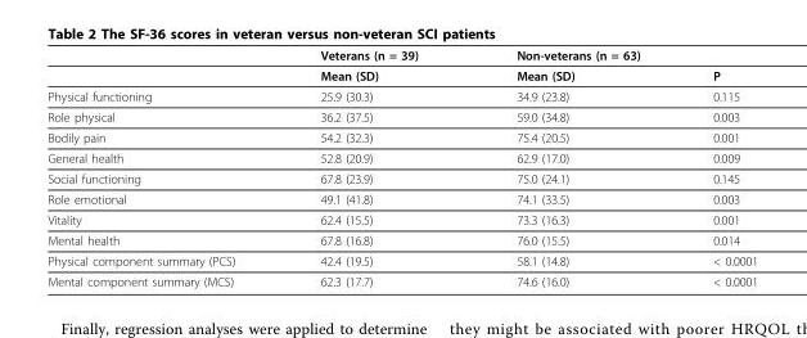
<table><thead><tr><td></td><td>Veterans (n = 39)</td><td>Non-veterans (n = 63)</td><td></td></tr></thead><tbody><tr><td></td><td>Mean (SD)</td><td>Mean (SD)</td><td>P</td></tr><tr><td>Physical functioning</td><td>25.9 (30.3)</td><td>34.9 (23.8)</td><td>0.115</td></tr><tr><td>Role physical</td><td>36.2 (37.5)</td><td>59.0 (34.8)</td><td>0.003</td></tr><tr><td>Bodily pain</td><td>54.2 (32.3)</td><td>75.4 (20.5)</td><td>0.001</td></tr><tr><td>General health</td><td>52.8 (20.9)</td><td>62.9 (17.0)</td><td>0.009</td></tr><tr><td>Social functioning</td><td>67.8 (23.9)</td><td>75.0 (24.1)</td><td>0.145</td></tr><tr><td>Role emotional</td><td>49.1 (41.8)</td><td>74.1 (33.5)</td><td>0.003</td></tr><tr><td>Vitality</td><td>62.4 (15.5)</td><td>73.3 (16.3)</td><td>0.001</td></tr><tr><td>Mental health</td><td>67.8 (16.8)</td><td>76.0 (15.5)</td><td>0.014</td></tr><tr><td>Physical component summary (PCS)</td><td>42.4 (19.5)</td><td>58.1 (14.8)</td><td>&lt; 0.0001</td></tr><tr><td>Mental component summary (MCS)</td><td>62.3 (17.7)</td><td>74.6 (16.0)</td><td>&lt; 0.0001</td></tr></tbody></table>